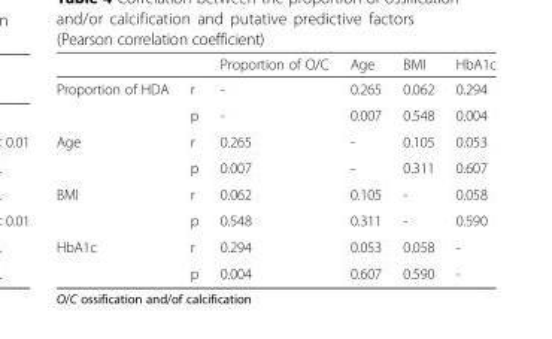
<table><thead><tr><td></td><td></td><td>Proportion of O/C</td><td>Age</td><td>BMI</td><td>HbA1c</td></tr></thead><tbody><tr><td rowspan="2">Proportion of HDA</td><td>r</td><td>-</td><td>0.265</td><td>0.062</td><td>0.294</td></tr><tr><td>p</td><td>-</td><td>0.007</td><td>0.548</td><td>0.004</td></tr><tr><td rowspan="2">Age</td><td>r</td><td>0.265</td><td>-</td><td>0.105</td><td>0.053</td></tr><tr><td>p</td><td>0.007</td><td>-</td><td>0.311</td><td>0.607</td></tr><tr><td rowspan="2">BMI</td><td>r</td><td>0.062</td><td>0.105</td><td>-</td><td>0.058</td></tr><tr><td>p</td><td>0.548</td><td>0.311</td><td>-</td><td>0.590</td></tr><tr><td rowspan="2">HbA1c</td><td>r</td><td>0.294</td><td>0.053</td><td>0.058</td><td>-</td></tr><tr><td>p</td><td>0.004</td><td>0.607</td><td>0.590</td><td>-</td></tr></tbody></table>